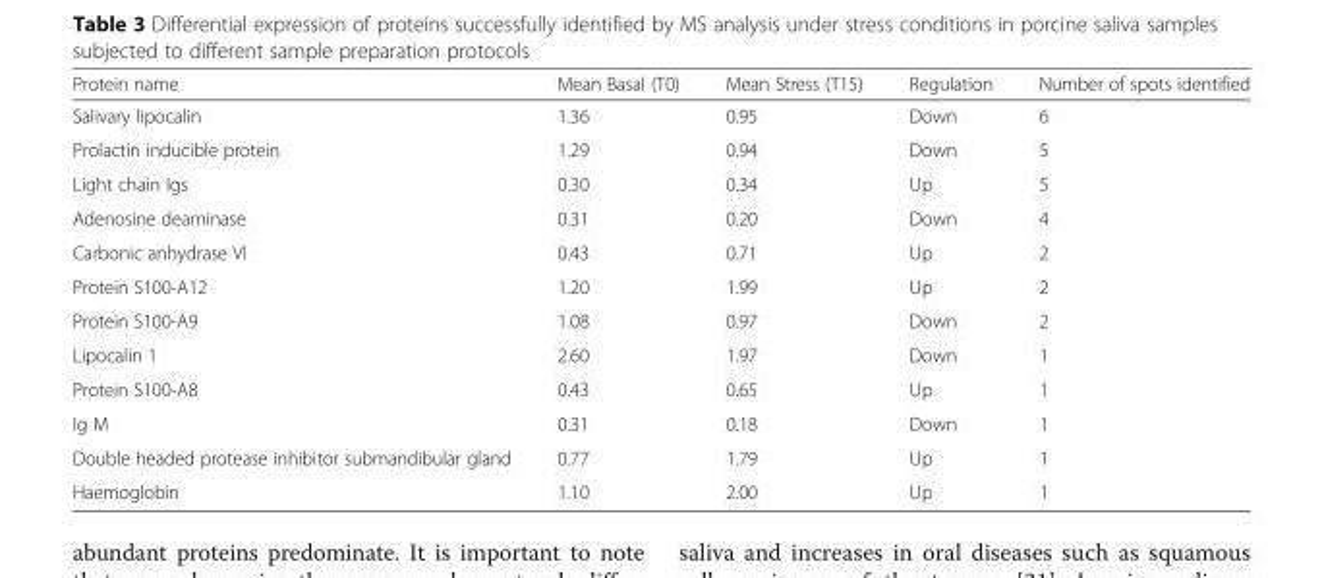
<table><thead><tr><td>Protein name</td><td>Mean Basal (T0)</td><td>Mean Stress (T15)</td><td>Regulation</td><td>Number of spots identified</td></tr></thead><tbody><tr><td>Salivary lipocalin</td><td>1.36</td><td>0.95</td><td>Down</td><td>6</td></tr><tr><td>Prolactin inducible protein</td><td>1.29</td><td>0.94</td><td>Down</td><td>5</td></tr><tr><td>Light chain Igs</td><td>0.30</td><td>0.34</td><td>Up</td><td>5</td></tr><tr><td>Adenosine deaminase</td><td>0.31</td><td>0.20</td><td>Down</td><td>4</td></tr><tr><td>Carbonic anhydrase VI</td><td>0.43</td><td>0.71</td><td>Up</td><td>2</td></tr><tr><td>Protein S100-A12</td><td>1.20</td><td>1.99</td><td>Up</td><td>2</td></tr><tr><td>Protein S100-A9</td><td>1.08</td><td>0.97</td><td>Down</td><td>2</td></tr><tr><td>Lipocalin 1</td><td>2.60</td><td>1.97</td><td>Down</td><td>1</td></tr><tr><td>Protein S100-A8</td><td>0.43</td><td>0.65</td><td>Up</td><td>1</td></tr><tr><td>Ig M</td><td>0.31</td><td>0.18</td><td>Down</td><td>1</td></tr><tr><td>Double headed protease inhibitor submandibular gland</td><td>0.77</td><td>1.79</td><td>Up</td><td>1</td></tr><tr><td>Haemoglobin</td><td>1.10</td><td>2.00</td><td>Up</td><td>1</td></tr></tbody></table>